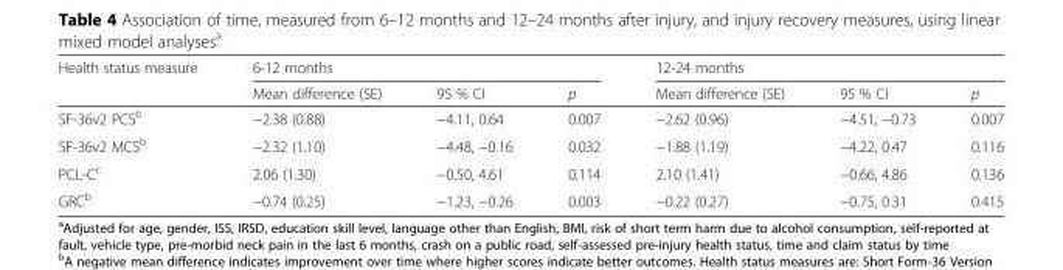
<table><thead><tr><td rowspan="2">Health status measure</td><td colspan="3">6-12 months</td><td colspan="3">12-24 months</td></tr><tr><td>Mean difference (SE)</td><td>95 % CI</td><td>p</td><td>Mean difference (SE)</td><td>95 % CI</td><td>p</td></tr></thead><tbody><tr><td>SF-36v2 PCS<sup>b</sup></td><td>−2.38 (0.88)</td><td>−4.11, 0.64</td><td>0.007</td><td>−2.62 (0.96)</td><td>−4.51, −0.73</td><td>0.007</td></tr><tr><td>SF-36v2 MCS<sup>b</sup></td><td>−2.32 (1.10)</td><td>−4.48, −0.16</td><td>0.032</td><td>−1.88 (1.19)</td><td>−4.22, 0.47</td><td>0.116</td></tr><tr><td>PCL-C<sup>c</sup></td><td>2.06 (1.30)</td><td>−0.50, 4.61</td><td>0.114</td><td>2.10 (1.41)</td><td>−0.66, 4.86</td><td>0.136</td></tr><tr><td>GRC<sup>b</sup></td><td>−0.74 (0.25)</td><td>−1.23, −0.26</td><td>0.003</td><td>−0.22 (0.27)</td><td>−0.75, 0.31</td><td>0.415</td></tr></tbody></table>